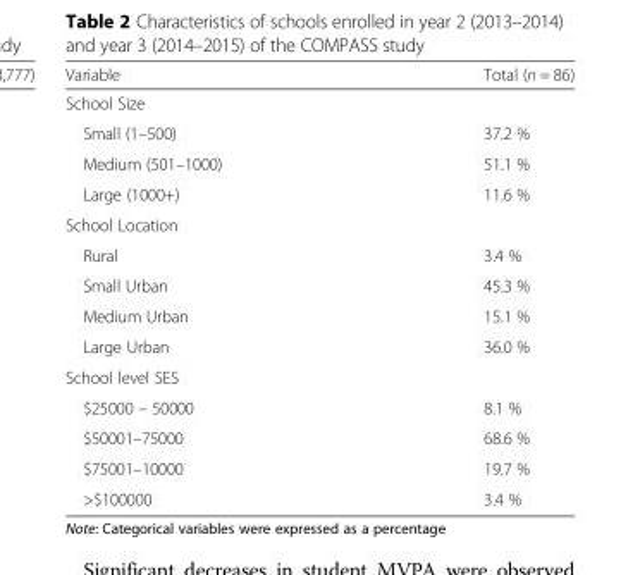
<table><thead><tr><td>Variable</td><td>Total (n = 86)</td></tr></thead><tbody><tr><td colspan="2">School Size</td></tr><tr><td>Small (1–500)</td><td>37.2 %</td></tr><tr><td>Medium (501–1000)</td><td>51.1 %</td></tr><tr><td>Large (1000+)</td><td>11.6 %</td></tr><tr><td colspan="2">School Location</td></tr><tr><td>Rural</td><td>3.4 %</td></tr><tr><td>Small Urban</td><td>45.3 %</td></tr><tr><td>Medium Urban</td><td>15.1 %</td></tr><tr><td>Large Urban</td><td>36.0 %</td></tr><tr><td colspan="2">School level SES</td></tr><tr><td>$25000 – 50000</td><td>8.1 %</td></tr><tr><td>$50001–75000</td><td>68.6 %</td></tr><tr><td>$75001–10000</td><td>19.7 %</td></tr><tr><td>&gt;$100000</td><td>3.4 %</td></tr></tbody></table>